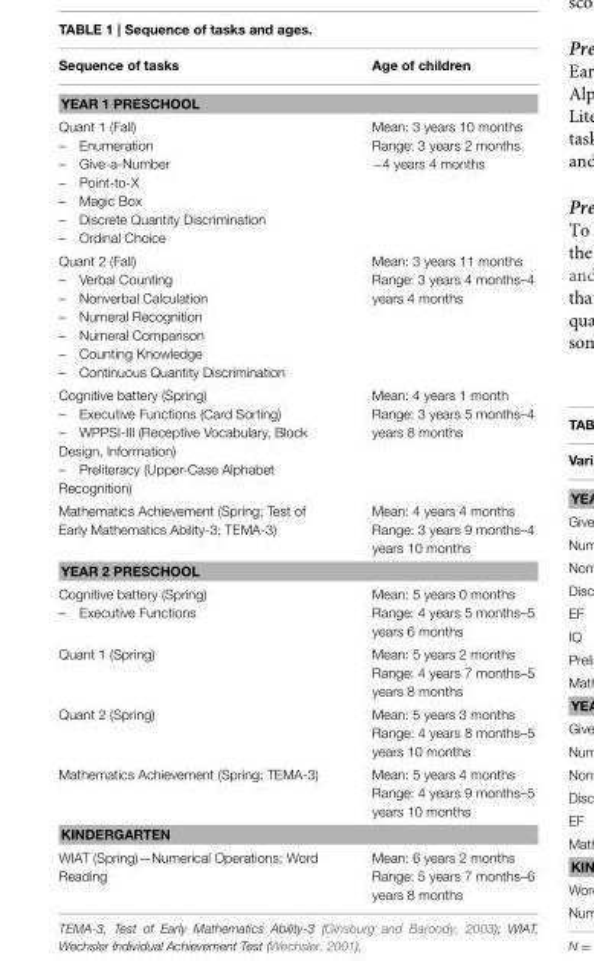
<table><thead><tr><td>Sequence of tasks</td><td>Age of children</td></tr></thead><tbody><tr><td colspan="2">YEAR 1 PRESCHOOL</td></tr><tr><td>Quant 1 (Fall) – Enumeration – Give-a-Number – Point-to-X – Magic Box – Discrete Quantity Discrimination – Ordinal Choice</td><td>Mean: 3 years 10 months Range: 3 years 2 months −4 years 4 months</td></tr><tr><td>Quant 2 (Fall) – Verbal Counting – Nonverbal Calculation – Numeral Recognition – Numeral Comparison – Counting Knowledge – Continuous Quantity Discrimination</td><td>Mean: 3 years 11 months Range: 3 years 4 months–4 years 4 months</td></tr><tr><td>Cognitive battery (Spring) – Executive Functions (Card Sorting) – WPPSI-III (Receptive Vocabulary, Block Design, Information) – Preliteracy (Upper-Case Alphabet Recognition)</td><td>Mean: 4 years 1 month Range: 3 years 5 months–4 years 8 months</td></tr><tr><td>Mathematics Achievement (Spring; Test of Early Mathematics Ability-3; TEMA-3)</td><td>Mean: 4 years 4 months Range: 3 years 9 months–4 years 10 months</td></tr><tr><td colspan="2">YEAR 2 PRESCHOOL</td></tr><tr><td>Cognitive battery (Spring) – Executive Functions</td><td>Mean: 5 years 0 months Range: 4 years 5 months–5 years 6 months</td></tr><tr><td>Quant 1 (Spring)</td><td>Mean: 5 years 2 months Range: 4 years 7 months–5 years 8 months</td></tr><tr><td>Quant 2 (Spring)</td><td>Mean: 5 years 3 months Range: 4 years 8 months–5 years 10 months</td></tr><tr><td>Mathematics Achievement (Spring; TEMA-3)</td><td>Mean: 5 years 4 months Range: 4 years 9 months–5 years 10 months</td></tr><tr><td colspan="2">KINDERGARTEN</td></tr><tr><td>WIAT (Spring)—Numerical Operations; Word Reading</td><td>Mean: 6 years 2 months Range: 5 years 7 months–6 years 8 months</td></tr></tbody></table>